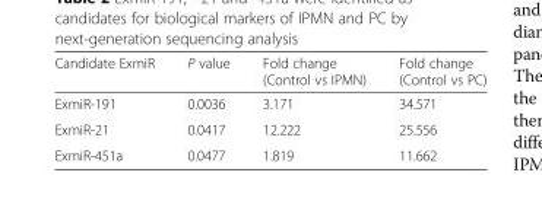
<table><thead><tr><td>Candidate ExmiR</td><td>P value</td><td>Fold change (Control vs IPMN)</td><td>Fold change (Control vs PC)</td></tr></thead><tbody><tr><td>ExmiR-191</td><td>0.0036</td><td>3.171</td><td>34.571</td></tr><tr><td>ExmiR-21</td><td>0.0417</td><td>12.222</td><td>25.556</td></tr><tr><td>ExmiR-451a</td><td>0.0477</td><td>1.819</td><td>11.662</td></tr></tbody></table>